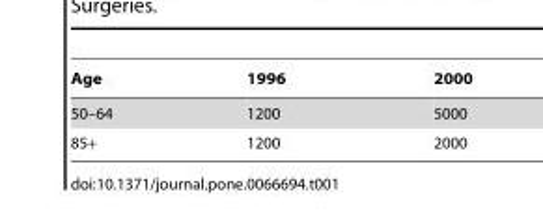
<table><thead><tr><td>Age</td><td>1996</td><td>2000</td></tr></thead><tbody><tr><td>50–64</td><td>1200</td><td>5000</td></tr><tr><td>85+</td><td>1200</td><td>2000</td></tr></tbody></table>